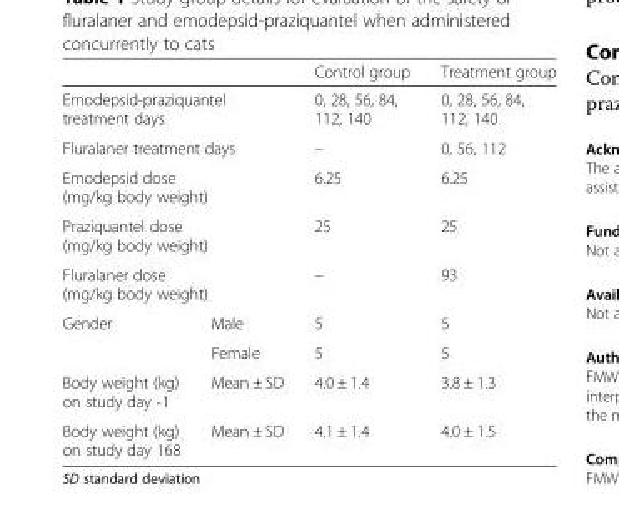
<table><thead><tr><td></td><td></td><td>Control group</td><td>Treatment group</td></tr></thead><tbody><tr><td colspan="2">Emodepsid-praziquantel treatment days</td><td>0, 28, 56, 84, 112, 140</td><td>0, 28, 56, 84, 112, 140</td></tr><tr><td colspan="2">Fluralaner treatment days</td><td>–</td><td>0, 56, 112</td></tr><tr><td colspan="2">Emodepsid dose (mg/kg body weight)</td><td>6.25</td><td>6.25</td></tr><tr><td colspan="2">Praziquantel dose (mg/kg body weight)</td><td>25</td><td>25</td></tr><tr><td colspan="2">Fluralaner dose (mg/kg body weight)</td><td>–</td><td>93</td></tr><tr><td rowspan="2">Gender</td><td>Male</td><td>5</td><td>5</td></tr><tr><td>Female</td><td>5</td><td>5</td></tr><tr><td>Body weight (kg) on study day -1</td><td>Mean ± SD</td><td>4.0 ± 1.4</td><td>3.8 ± 1.3</td></tr><tr><td>Body weight (kg) on study day 168</td><td>Mean ± SD</td><td>4.1 ± 1.4</td><td>4.0 ± 1.5</td></tr></tbody></table>